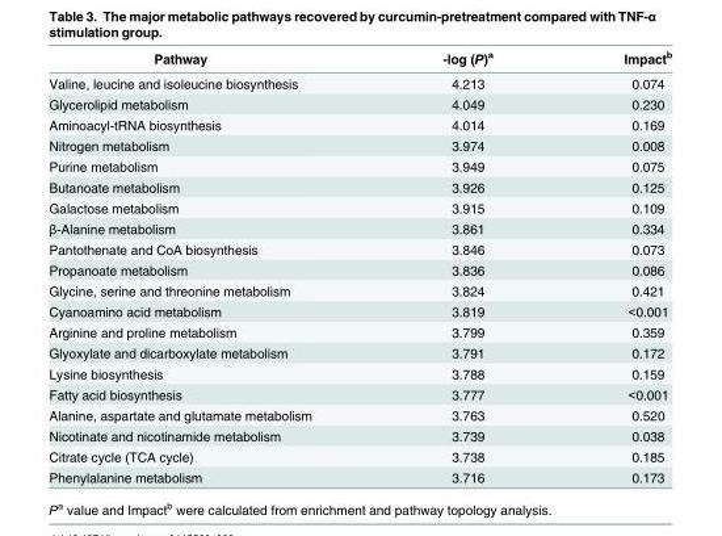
<table><thead><tr><td>Pathway</td><td>-log (P)<sup>a</sup></td><td>Impact<sup>b</sup></td></tr></thead><tbody><tr><td>Valine, leucine and isoleucine biosynthesis</td><td>4.213</td><td>0.074</td></tr><tr><td>Glycerolipid metabolism</td><td>4.049</td><td>0.230</td></tr><tr><td>Aminoacyl-tRNA biosynthesis</td><td>4.014</td><td>0.169</td></tr><tr><td>Nitrogen metabolism</td><td>3.974</td><td>0.008</td></tr><tr><td>Purine metabolism</td><td>3.949</td><td>0.075</td></tr><tr><td>Butanoate metabolism</td><td>3.926</td><td>0.125</td></tr><tr><td>Galactose metabolism</td><td>3.915</td><td>0.109</td></tr><tr><td>β-Alanine metabolism</td><td>3.861</td><td>0.334</td></tr><tr><td>Pantothenate and CoA biosynthesis</td><td>3.846</td><td>0.073</td></tr><tr><td>Propanoate metabolism</td><td>3.836</td><td>0.086</td></tr><tr><td>Glycine, serine and threonine metabolism</td><td>3.824</td><td>0.421</td></tr><tr><td>Cyanoamino acid metabolism</td><td>3.819</td><td>&lt;0.001</td></tr><tr><td>Arginine and proline metabolism</td><td>3.799</td><td>0.359</td></tr><tr><td>Glyoxylate and dicarboxylate metabolism</td><td>3.791</td><td>0.172</td></tr><tr><td>Lysine biosynthesis</td><td>3.788</td><td>0.159</td></tr><tr><td>Fatty acid biosynthesis</td><td>3.777</td><td>&lt;0.001</td></tr><tr><td>Alanine, aspartate and glutamate metabolism</td><td>3.763</td><td>0.520</td></tr><tr><td>Nicotinate and nicotinamide metabolism</td><td>3.739</td><td>0.038</td></tr><tr><td>Citrate cycle (TCA cycle)</td><td>3.738</td><td>0.185</td></tr><tr><td>Phenylalanine metabolism</td><td>3.716</td><td>0.173</td></tr></tbody></table>